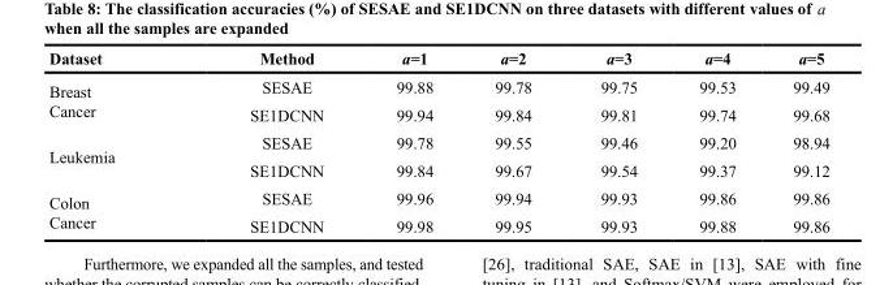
<table><thead><tr><td>Dataset</td><td>Method</td><td>a=1</td><td>a=2</td><td>a=3</td><td>a=4</td><td>a=5</td></tr></thead><tbody><tr><td rowspan="2">Breast Cancer</td><td>SESAE</td><td>99.88</td><td>99.78</td><td>99.75</td><td>99.53</td><td>99.49</td></tr><tr><td>SE1DCNN</td><td>99.94</td><td>99.84</td><td>99.81</td><td>99.74</td><td>99.68</td></tr><tr><td rowspan="2">Leukemia</td><td>SESAE</td><td>99.78</td><td>99.55</td><td>99.46</td><td>99.20</td><td>98.94</td></tr><tr><td>SE1DCNN</td><td>99.84</td><td>99.67</td><td>99.54</td><td>99.37</td><td>99.12</td></tr><tr><td rowspan="2">Colon Cancer</td><td>SESAE</td><td>99.96</td><td>99.94</td><td>99.93</td><td>99.86</td><td>99.86</td></tr><tr><td>SE1DCNN</td><td>99.98</td><td>99.95</td><td>99.93</td><td>99.88</td><td>99.86</td></tr></tbody></table>